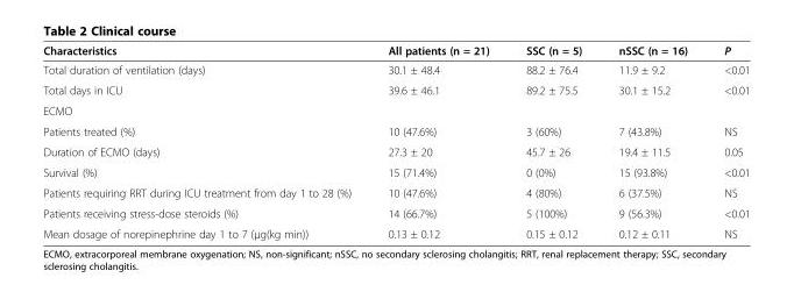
<table><thead><tr><td>Characteristics</td><td>All patients (n = 21)</td><td>SSC (n = 5)</td><td>nSSC (n = 16)</td><td>P</td></tr></thead><tbody><tr><td>Total duration of ventilation (days)</td><td>30.1 ± 48.4</td><td>88.2 ± 76.4</td><td>11.9 ± 9.2</td><td>&lt;0.01</td></tr><tr><td>Total days in ICU</td><td>39.6 ± 46.1</td><td>89.2 ± 75.5</td><td>30.1 ± 15.2</td><td>&lt;0.01</td></tr><tr><td colspan="5">ECMO</td></tr><tr><td>Patients treated (%)</td><td>10 (47.6%)</td><td>3 (60%)</td><td>7 (43.8%)</td><td>NS</td></tr><tr><td>Duration of ECMO (days)</td><td>27.3 ± 20</td><td>45.7 ± 26</td><td>19.4 ± 11.5</td><td>0.05</td></tr><tr><td>Survival (%)</td><td>15 (71.4%)</td><td>0 (0%)</td><td>15 (93.8%)</td><td>&lt;0.01</td></tr><tr><td>Patients requiring RRT during ICU treatment from day 1 to 28 (%)</td><td>10 (47.6%)</td><td>4 (80%)</td><td>6 (37.5%)</td><td>NS</td></tr><tr><td>Patients receiving stress-dose steroids (%)</td><td>14 (66.7%)</td><td>5 (100%)</td><td>9 (56.3%)</td><td>&lt;0.01</td></tr><tr><td>Mean dosage of norepinephrine day 1 to 7 (μg(kg min))</td><td>0.13 ± 0.12</td><td>0.15 ± 0.12</td><td>0.12 ± 0.11</td><td>NS</td></tr></tbody></table>